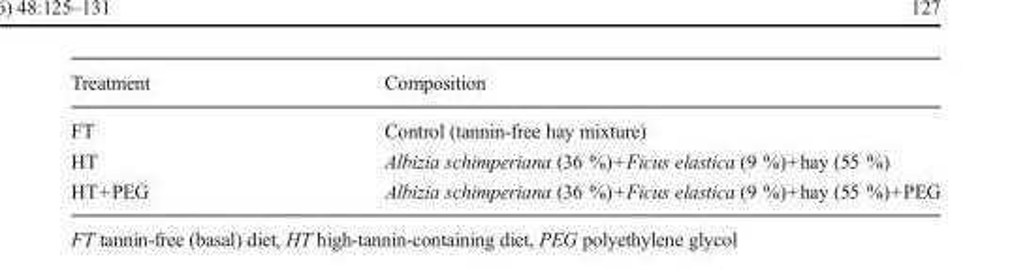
<table><thead><tr><td>Treatment</td><td>Composition</td></tr></thead><tbody><tr><td>FT</td><td>Control (tannin-free hay mixture)</td></tr><tr><td>HT</td><td>Albizia schimperiana (36 %)+Ficus elastica (9 %)+hay (55 %)</td></tr><tr><td>HT+PEG</td><td>Albizia schimperiana (36 %)+Ficus elastica (9 %)+hay (55 %)+PEG</td></tr></tbody></table>